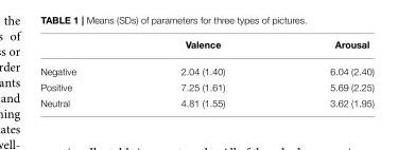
<table><thead><tr><td></td><td>Valence</td><td>Arousal</td></tr></thead><tbody><tr><td>Negative</td><td>2.04 (1.40)</td><td>6.04 (2.40)</td></tr><tr><td>Positive</td><td>7.25 (1.61)</td><td>5.69 (2.25)</td></tr><tr><td>Neutral</td><td>4.81 (1.55)</td><td>3.62 (1.95)</td></tr></tbody></table>